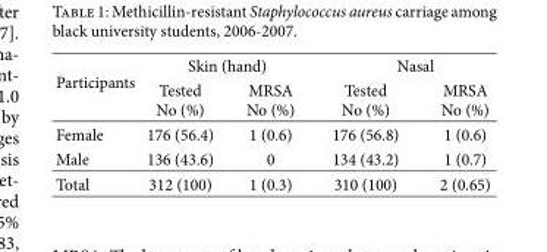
<table><thead><tr><td rowspan="2">Participants</td><td colspan="2">Skin (hand)</td><td colspan="2">Nasal</td></tr><tr><td>Tested No (%)</td><td>MRSA No (%)</td><td>Tested No (%)</td><td>MRSA No (%)</td></tr></thead><tbody><tr><td>Female</td><td>176 (56.4)</td><td>1 (0.6)</td><td>176 (56.8)</td><td>1 (0.6)</td></tr><tr><td>Male</td><td>136 (43.6)</td><td>0</td><td>134 (43.2)</td><td>1 (0.7)</td></tr><tr><td>Total</td><td>312 (100)</td><td>1 (0.3)</td><td>310 (100)</td><td>2 (0.65)</td></tr></tbody></table>